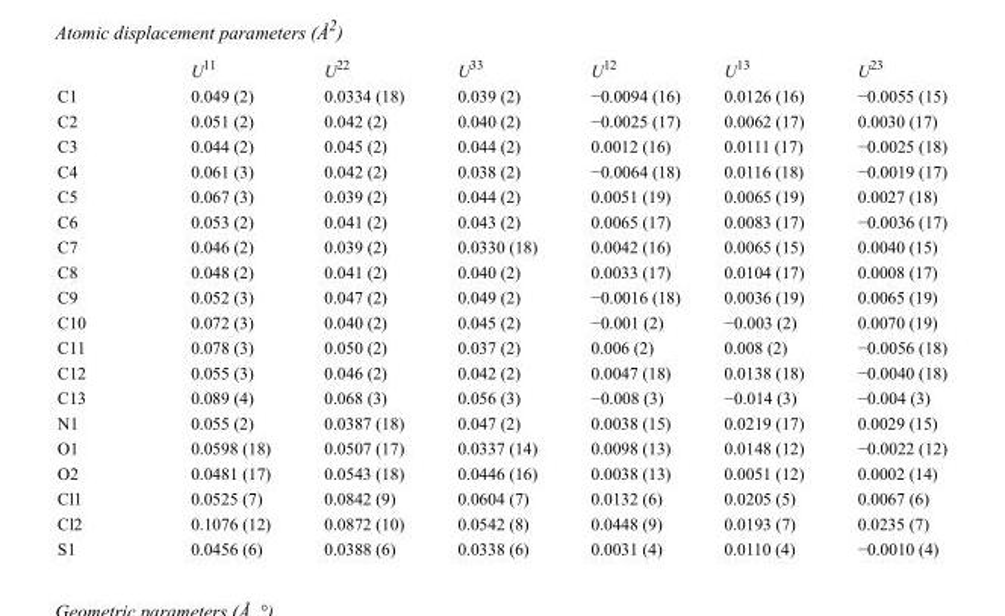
<table><thead><tr><td></td><td>U<sup>11</sup></td><td>U<sup>22</sup></td><td>U<sup>33</sup></td><td>U<sup>12</sup></td><td>U<sup>13</sup></td><td>U<sup>23</sup></td></tr></thead><tbody><tr><td>C1</td><td>0.049 (2)</td><td>0.0334 (18)</td><td>0.039 (2)</td><td>−0.0094 (16)</td><td>0.0126 (16)</td><td>−0.0055 (15)</td></tr><tr><td>C2</td><td>0.051 (2)</td><td>0.042 (2)</td><td>0.040 (2)</td><td>−0.0025 (17)</td><td>0.0062 (17)</td><td>0.0030 (17)</td></tr><tr><td>C3</td><td>0.044 (2)</td><td>0.045 (2)</td><td>0.044 (2)</td><td>0.0012 (16)</td><td>0.0111 (17)</td><td>−0.0025 (18)</td></tr><tr><td>C4</td><td>0.061 (3)</td><td>0.042 (2)</td><td>0.038 (2)</td><td>−0.0064 (18)</td><td>0.0116 (18)</td><td>−0.0019 (17)</td></tr><tr><td>C5</td><td>0.067 (3)</td><td>0.039 (2)</td><td>0.044 (2)</td><td>0.0051 (19)</td><td>0.0065 (19)</td><td>0.0027 (18)</td></tr><tr><td>C6</td><td>0.053 (2)</td><td>0.041 (2)</td><td>0.043 (2)</td><td>0.0065 (17)</td><td>0.0083 (17)</td><td>−0.0036 (17)</td></tr><tr><td>C7</td><td>0.046 (2)</td><td>0.039 (2)</td><td>0.0330 (18)</td><td>0.0042 (16)</td><td>0.0065 (15)</td><td>0.0040 (15)</td></tr><tr><td>C8</td><td>0.048 (2)</td><td>0.041 (2)</td><td>0.040 (2)</td><td>0.0033 (17)</td><td>0.0104 (17)</td><td>0.0008 (17)</td></tr><tr><td>C9</td><td>0.052 (3)</td><td>0.047 (2)</td><td>0.049 (2)</td><td>−0.0016 (18)</td><td>0.0036 (19)</td><td>0.0065 (19)</td></tr><tr><td>C10</td><td>0.072 (3)</td><td>0.040 (2)</td><td>0.045 (2)</td><td>−0.001 (2)</td><td>−0.003 (2)</td><td>0.0070 (19)</td></tr><tr><td>C11</td><td>0.078 (3)</td><td>0.050 (2)</td><td>0.037 (2)</td><td>0.006 (2)</td><td>0.008 (2)</td><td>−0.0056 (18)</td></tr><tr><td>C12</td><td>0.055 (3)</td><td>0.046 (2)</td><td>0.042 (2)</td><td>0.0047 (18)</td><td>0.0138 (18)</td><td>−0.0040 (18)</td></tr><tr><td>C13</td><td>0.089 (4)</td><td>0.068 (3)</td><td>0.056 (3)</td><td>−0.008 (3)</td><td>−0.014 (3)</td><td>−0.004 (3)</td></tr><tr><td>N1</td><td>0.055 (2)</td><td>0.0387 (18)</td><td>0.047 (2)</td><td>0.0038 (15)</td><td>0.0219 (17)</td><td>0.0029 (15)</td></tr><tr><td>O1</td><td>0.0598 (18)</td><td>0.0507 (17)</td><td>0.0337 (14)</td><td>0.0098 (13)</td><td>0.0148 (12)</td><td>−0.0022 (12)</td></tr><tr><td>O2</td><td>0.0481 (17)</td><td>0.0543 (18)</td><td>0.0446 (16)</td><td>0.0038 (13)</td><td>0.0051 (12)</td><td>0.0002 (14)</td></tr><tr><td>Cl1</td><td>0.0525 (7)</td><td>0.0842 (9)</td><td>0.0604 (7)</td><td>0.0132 (6)</td><td>0.0205 (5)</td><td>0.0067 (6)</td></tr><tr><td>Cl2</td><td>0.1076 (12)</td><td>0.0872 (10)</td><td>0.0542 (8)</td><td>0.0448 (9)</td><td>0.0193 (7)</td><td>0.0235 (7)</td></tr><tr><td>S1</td><td>0.0456 (6)</td><td>0.0388 (6)</td><td>0.0338 (6)</td><td>0.0031 (4)</td><td>0.0110 (4)</td><td>−0.0010 (4)</td></tr></tbody></table>